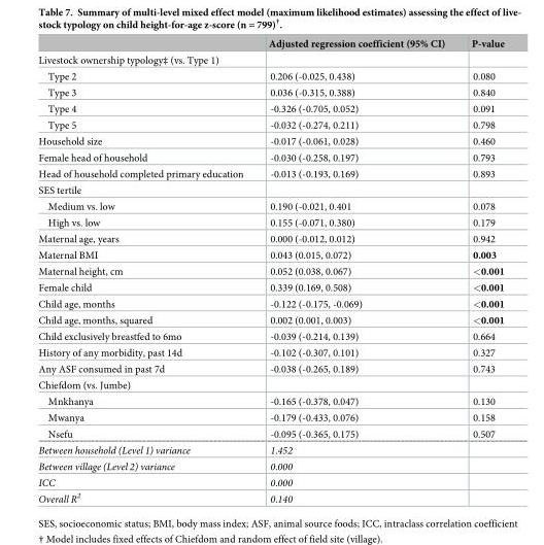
<table><thead><tr><td></td><td>Adjusted regression coefficient (95% CI)</td><td>P-value</td></tr></thead><tbody><tr><td colspan="3">Livestock ownership typology‡ (vs. Type 1)</td></tr><tr><td>Type 2</td><td>0.206 (-0.025, 0.438)</td><td>0.080</td></tr><tr><td>Type 3</td><td>0.036 (-0.315, 0.388)</td><td>0.840</td></tr><tr><td>Type 4</td><td>-0.326 (-0.705, 0.052)</td><td>0.091</td></tr><tr><td>Type 5</td><td>-0.032 (-0.274, 0.211)</td><td>0.798</td></tr><tr><td>Household size</td><td>-0.017 (-0.061, 0.028)</td><td>0.460</td></tr><tr><td>Female head of household</td><td>-0.030 (-0.258, 0.197)</td><td>0.793</td></tr><tr><td>Head of household completed primary education</td><td>-0.013 (-0.193, 0.169)</td><td>0.893</td></tr><tr><td colspan="3">SES tertile</td></tr><tr><td>Medium vs. low</td><td>0.190 (-0.021, 0.401</td><td>0.078</td></tr><tr><td>High vs. low</td><td>0.155 (-0.071, 0.380)</td><td>0.179</td></tr><tr><td>Maternal age, years</td><td>0.000 (-0.012, 0.012)</td><td>0.942</td></tr><tr><td>Maternal BMI</td><td>0.043 (0.015, 0.072)</td><td>0.003</td></tr><tr><td>Maternal height, cm</td><td>0.052 (0.038, 0.067)</td><td>&lt;0.001</td></tr><tr><td>Female child</td><td>0.339 (0.169, 0.508)</td><td>&lt;0.001</td></tr><tr><td>Child age, months</td><td>-0.122 (-0.175, -0.069)</td><td>&lt;0.001</td></tr><tr><td>Child age, months, squared</td><td>0.002 (0.001, 0.003)</td><td>&lt;0.001</td></tr><tr><td>Child exclusively breastfed to 6mo</td><td>-0.039 (-0.214, 0.139)</td><td>0.664</td></tr><tr><td>History of any morbidity, past 14d</td><td>-0.102 (-0.307, 0.101)</td><td>0.327</td></tr><tr><td>Any ASF consumed in past 7d</td><td>-0.038 (-0.265, 0.189)</td><td>0.743</td></tr><tr><td colspan="3">Chiefdom (vs. Jumbe)</td></tr><tr><td>Mnkhanya</td><td>-0.165 (-0.378, 0.047)</td><td>0.130</td></tr><tr><td>Mwanya</td><td>-0.179 (-0.433, 0.076)</td><td>0.158</td></tr><tr><td>Nsefu</td><td>-0.095 (-0.365, 0.175)</td><td>0.507</td></tr><tr><td>Between household (Level 1) variance</td><td>1.452</td><td></td></tr><tr><td>Between village (Level 2) variance</td><td>0.000</td><td></td></tr><tr><td>ICC</td><td>0.000</td><td></td></tr><tr><td>Overall R<sup>2</sup></td><td>0.140</td><td></td></tr></tbody></table>